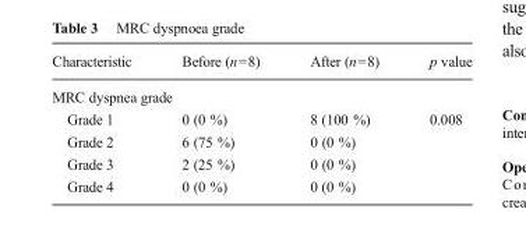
<table><thead><tr><td>Characteristic</td><td>Before (n=8)</td><td>After (n=8)</td><td>p value</td></tr></thead><tbody><tr><td colspan="4">MRC dyspnea grade</td></tr><tr><td>Grade 1</td><td>0 (0 %)</td><td>8 (100 %)</td><td>0.008</td></tr><tr><td>Grade 2</td><td>6 (75 %)</td><td>0 (0 %)</td><td></td></tr><tr><td>Grade 3</td><td>2 (25 %)</td><td>0 (0 %)</td><td></td></tr><tr><td>Grade 4</td><td>0 (0 %)</td><td>0 (0 %)</td><td></td></tr></tbody></table>